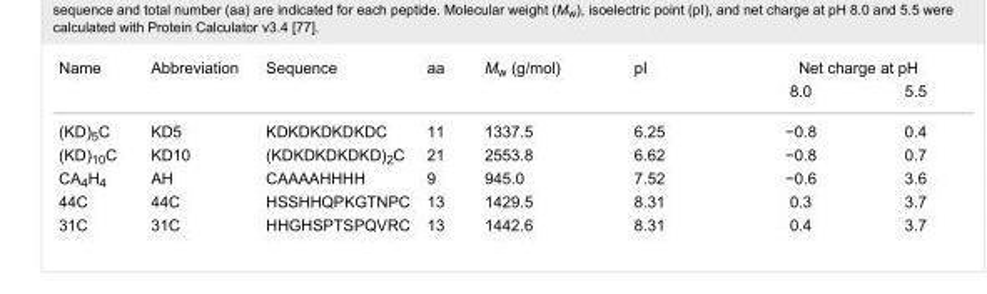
<table><tbody><tr><td rowspan="2">Name</td><td rowspan="2">Abbreviation</td><td rowspan="2">Sequence</td><td rowspan="2">aa</td><td rowspan="2">M<sub>w</sub> (g/mol)</td><td rowspan="2">pI</td><td colspan="2">Net charge at pH</td></tr><tr><td>8.0</td><td>5.5</td></tr><tr><td>(KD)<sub>5</sub>C</td><td>KD5</td><td>KDKDKDKDKDC</td><td>11</td><td>1337.5</td><td>6.25</td><td>−0.8</td><td>0.4</td></tr><tr><td>(KD)<sub>10</sub>C</td><td>KD10</td><td>(KDKDKDKDKD)<sub>2</sub>C</td><td>21</td><td>2553.8</td><td>6.62</td><td>−0.8</td><td>0.7</td></tr><tr><td>CA<sub>4</sub>H<sub>4</sub></td><td>AH</td><td>CAAAAHHHH</td><td>9</td><td>945.0</td><td>7.52</td><td>−0.6</td><td>3.6</td></tr><tr><td>44C</td><td>44C</td><td>HSSHHQPKGTNPC</td><td>13</td><td>1429.5</td><td>8.31</td><td>0.3</td><td>3.7</td></tr><tr><td>31C</td><td>31C</td><td>HHGHSPTSPQVRC</td><td>13</td><td>1442.6</td><td>8.31</td><td>0.4</td><td>3.7</td></tr></tbody></table>